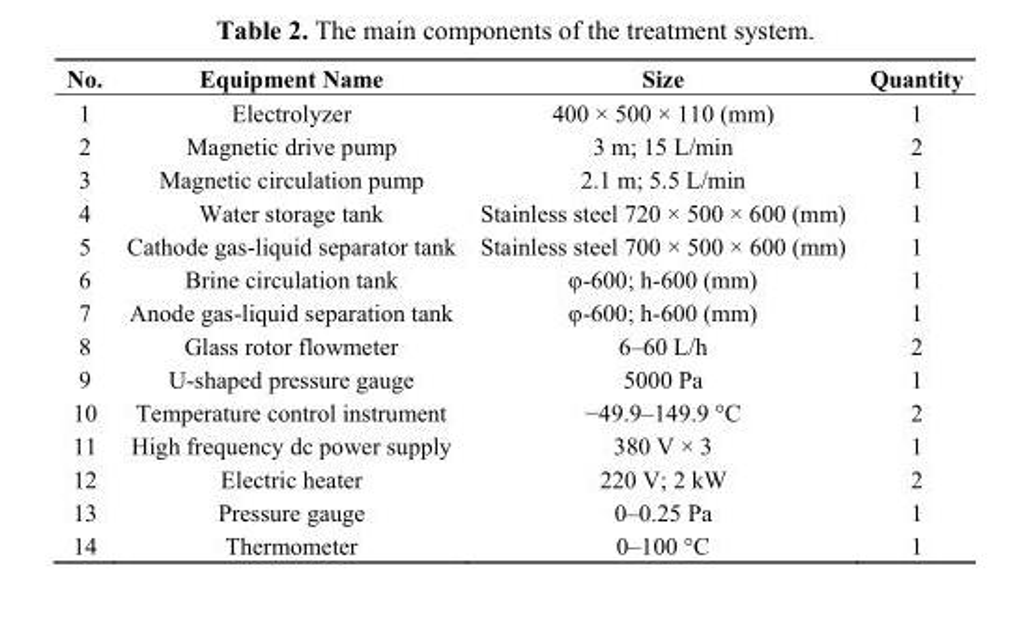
<table><thead><tr><td>No.</td><td>Equipment Name</td><td>Size</td><td>Quantity</td></tr></thead><tbody><tr><td>1</td><td>Electrolyzer</td><td>400 × 500 × 110 (mm)</td><td>1</td></tr><tr><td>2</td><td>Magnetic drive pump</td><td>3 m; 15 L/min</td><td>2</td></tr><tr><td>3</td><td>Magnetic circulation pump</td><td>2.1 m; 5.5 L/min</td><td>1</td></tr><tr><td>4</td><td>Water storage tank</td><td>Stainless steel 720 × 500 × 600 (mm)</td><td>1</td></tr><tr><td>5</td><td>Cathode gas-liquid separator tank</td><td>Stainless steel 700 × 500 × 600 (mm)</td><td>1</td></tr><tr><td>6</td><td>Brine circulation tank</td><td>φ-600; h-600 (mm)</td><td>1</td></tr><tr><td>7</td><td>Anode gas-liquid separation tank</td><td>φ-600; h-600 (mm)</td><td>1</td></tr><tr><td>8</td><td>Glass rotor flowmeter</td><td>6–60 L/h</td><td>2</td></tr><tr><td>9</td><td>U-shaped pressure gauge</td><td>5000 Pa</td><td>1</td></tr><tr><td>10</td><td>Temperature control instrument</td><td>−49.9–149.9 °C</td><td>2</td></tr><tr><td>11</td><td>High frequency dc power supply</td><td>380 V × 3</td><td>1</td></tr><tr><td>12</td><td>Electric heater</td><td>220 V; 2 kW</td><td>2</td></tr><tr><td>13</td><td>Pressure gauge</td><td>0–0.25 Pa</td><td>1</td></tr><tr><td>14</td><td>Thermometer</td><td>0–100 °C</td><td>1</td></tr></tbody></table>